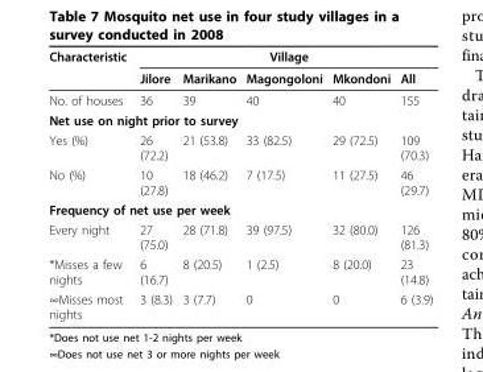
<table><tbody><tr><td rowspan="2">Characteristic</td><td colspan="5">Village</td></tr><tr><td>Jilore</td><td>Marikano</td><td>Magongoloni</td><td>Mkondoni</td><td>All</td></tr><tr><td>No. of houses</td><td>36</td><td>39</td><td>40</td><td>40</td><td>155</td></tr><tr><td colspan="6">Net use on night prior to survey</td></tr><tr><td>Yes (%)</td><td>26 (72.2)</td><td>21 (53.8)</td><td>33 (82.5)</td><td>29 (72.5)</td><td>109 (70.3)</td></tr><tr><td>No (%)</td><td>10 (27.8)</td><td>18 (46.2)</td><td>7 (17.5)</td><td>11 (27.5)</td><td>46 (29.7)</td></tr><tr><td colspan="6">Frequency of net use per week</td></tr><tr><td>Every night</td><td>27 (75.0)</td><td>28 (71.8)</td><td>39 (97.5)</td><td>32 (80.0)</td><td>126 (81.3)</td></tr><tr><td>*Misses a few nights</td><td>6 (16.7)</td><td>8 (20.5)</td><td>1 (2.5)</td><td>8 (20.0)</td><td>23 (14.8)</td></tr><tr><td>∞Misses most nights</td><td>3 (8.3)</td><td>3 (7.7)</td><td>0</td><td>0</td><td>6 (3.9)</td></tr></tbody></table>